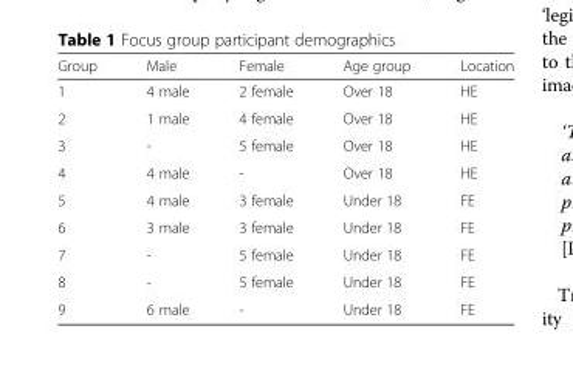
<table><thead><tr><td>Group</td><td>Male</td><td>Female</td><td>Age group</td><td>Location</td></tr></thead><tbody><tr><td>1</td><td>4 male</td><td>2 female</td><td>Over 18</td><td>HE</td></tr><tr><td>2</td><td>1 male</td><td>4 female</td><td>Over 18</td><td>HE</td></tr><tr><td>3</td><td>-</td><td>5 female</td><td>Over 18</td><td>HE</td></tr><tr><td>4</td><td>4 male</td><td>-</td><td>Over 18</td><td>HE</td></tr><tr><td>5</td><td>4 male</td><td>3 female</td><td>Under 18</td><td>FE</td></tr><tr><td>6</td><td>3 male</td><td>3 female</td><td>Under 18</td><td>FE</td></tr><tr><td>7</td><td>-</td><td>5 female</td><td>Under 18</td><td>FE</td></tr><tr><td>8</td><td>-</td><td>5 female</td><td>Under 18</td><td>FE</td></tr><tr><td>9</td><td>6 male</td><td>-</td><td>Under 18</td><td>FE</td></tr></tbody></table>